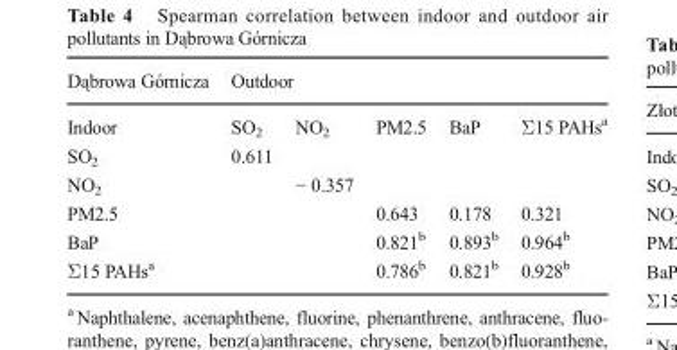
<table><thead><tr><td rowspan="2">Dąbrowa Górnicza Indoor</td><td colspan="5">Outdoor</td></tr><tr><td>SO<sub>2</sub></td><td>NO<sub>2</sub></td><td>PM2.5</td><td>BaP</td><td>Σ15 PAHs<sup>a</sup></td></tr></thead><tbody><tr><td>SO<sub>2</sub></td><td>0.611</td><td></td><td></td><td></td><td></td></tr><tr><td>NO<sub>2</sub></td><td></td><td>− 0.357</td><td></td><td></td><td></td></tr><tr><td>PM2.5</td><td></td><td></td><td>0.643</td><td>0.178</td><td>0.321</td></tr><tr><td>BaP</td><td></td><td></td><td>0.821<sup>b</sup></td><td>0.893<sup>b</sup></td><td>0.964<sup>b</sup></td></tr><tr><td>Σ15 PAHs<sup>a</sup></td><td></td><td></td><td>0.786<sup>b</sup></td><td>0.821<sup>b</sup></td><td>0.928<sup>b</sup></td></tr></tbody></table>